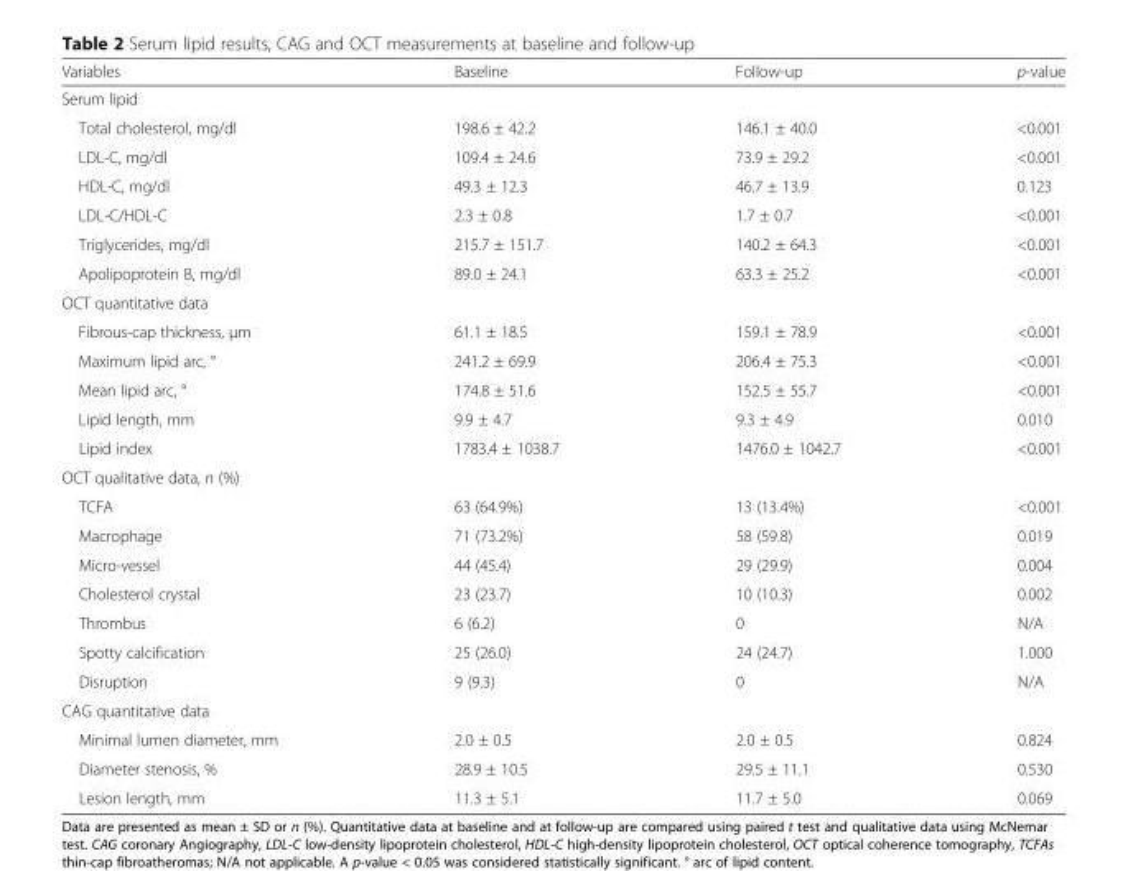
<table><thead><tr><td>Variables</td><td>Baseline</td><td>Follow-up</td><td>p-value</td></tr></thead><tbody><tr><td colspan="4">Serum lipid</td></tr><tr><td>Total cholesterol, mg/dl</td><td>198.6 ± 42.2</td><td>146.1 ± 40.0</td><td>&lt;0.001</td></tr><tr><td>LDL-C, mg/dl</td><td>109.4 ± 24.6</td><td>73.9 ± 29.2</td><td>&lt;0.001</td></tr><tr><td>HDL-C, mg/dl</td><td>49.3 ± 12.3</td><td>46.7 ± 13.9</td><td>0.123</td></tr><tr><td>LDL-C/HDL-C</td><td>2.3 ± 0.8</td><td>1.7 ± 0.7</td><td>&lt;0.001</td></tr><tr><td>Triglycerides, mg/dl</td><td>215.7 ± 151.7</td><td>140.2 ± 64.3</td><td>&lt;0.001</td></tr><tr><td>Apolipoprotein B, mg/dl</td><td>89.0 ± 24.1</td><td>63.3 ± 25.2</td><td>&lt;0.001</td></tr><tr><td colspan="4">OCT quantitative data</td></tr><tr><td>Fibrous-cap thickness, μm</td><td>61.1 ± 18.5</td><td>159.1 ± 78.9</td><td>&lt;0.001</td></tr><tr><td>Maximum lipid arc, °</td><td>241.2 ± 69.9</td><td>206.4 ± 75.3</td><td>&lt;0.001</td></tr><tr><td>Mean lipid arc, °</td><td>174.8 ± 51.6</td><td>152.5 ± 55.7</td><td>&lt;0.001</td></tr><tr><td>Lipid length, mm</td><td>9.9 ± 4.7</td><td>9.3 ± 4.9</td><td>0.010</td></tr><tr><td>Lipid index</td><td>1783.4 ± 1038.7</td><td>1476.0 ± 1042.7</td><td>&lt;0.001</td></tr><tr><td colspan="4">OCT qualitative data, n (%)</td></tr><tr><td>TCFA</td><td>63 (64.9%)</td><td>13 (13.4%)</td><td>&lt;0.001</td></tr><tr><td>Macrophage</td><td>71 (73.2%)</td><td>58 (59.8)</td><td>0.019</td></tr><tr><td>Micro-vessel</td><td>44 (45.4)</td><td>29 (29.9)</td><td>0.004</td></tr><tr><td>Cholesterol crystal</td><td>23 (23.7)</td><td>10 (10.3)</td><td>0.002</td></tr><tr><td>Thrombus</td><td>6 (6.2)</td><td>0</td><td>N/A</td></tr><tr><td>Spotty calcification</td><td>25 (26.0)</td><td>24 (24.7)</td><td>1.000</td></tr><tr><td>Disruption</td><td>9 (9.3)</td><td>0</td><td>N/A</td></tr><tr><td colspan="4">CAG quantitative data</td></tr><tr><td>Minimal lumen diameter, mm</td><td>2.0 ± 0.5</td><td>2.0 ± 0.5</td><td>0.824</td></tr><tr><td>Diameter stenosis, %</td><td>28.9 ± 10.5</td><td>29.5 ± 11.1</td><td>0.530</td></tr><tr><td>Lesion length, mm</td><td>11.3 ± 5.1</td><td>11.7 ± 5.0</td><td>0.069</td></tr></tbody></table>